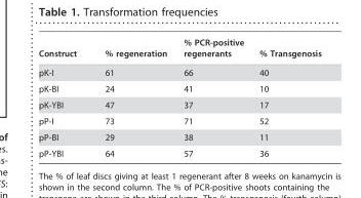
<table><thead><tr><td>Construct</td><td>% regeneration</td><td>% PCR-positive regenerants</td><td>% Transgenosis</td></tr></thead><tbody><tr><td>pK-I</td><td>61</td><td>66</td><td>40</td></tr><tr><td>pK-BI</td><td>24</td><td>41</td><td>10</td></tr><tr><td>pK-YBI</td><td>47</td><td>37</td><td>17</td></tr><tr><td>pP-I</td><td>73</td><td>71</td><td>52</td></tr><tr><td>pP-BI</td><td>29</td><td>38</td><td>11</td></tr><tr><td>pP-YBI</td><td>64</td><td>57</td><td>36</td></tr></tbody></table>